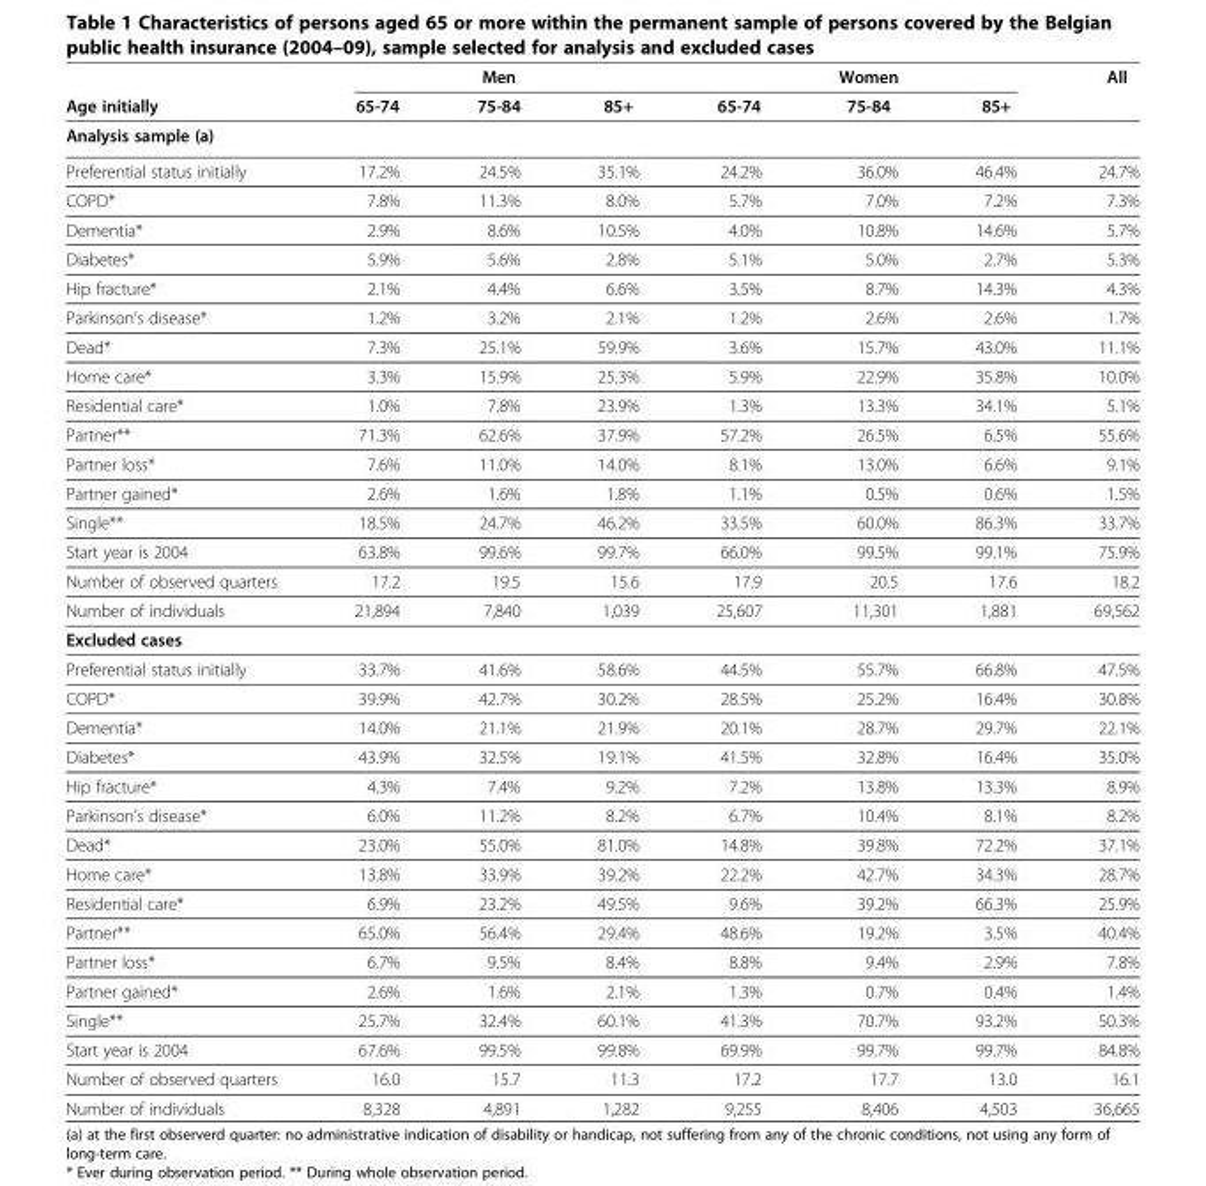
<table><thead><tr><td rowspan="3">Age initially Analysis sample (a)</td><td rowspan="3">65-74</td><td rowspan="3">Men 75-84</td><td rowspan="3">85+</td><td rowspan="3">65-74</td><td rowspan="3">Women 75-84</td><td rowspan="3">85+</td><td rowspan="3">All</td></tr><tr></tr><tr></tr></thead><tbody><tr><td>Preferential status initially</td><td>17.2%</td><td>24.5%</td><td>35.1%</td><td>24.2%</td><td>36.0%</td><td>46.4%</td><td>24.7%</td></tr><tr><td>COPD*</td><td>7.8%</td><td>11.3%</td><td>8.0%</td><td>5.7%</td><td>7.0%</td><td>7.2%</td><td>7.3%</td></tr><tr><td>Dementia*</td><td>2.9%</td><td>8.6%</td><td>10.5%</td><td>4.0%</td><td>10.8%</td><td>14.6%</td><td>5.7%</td></tr><tr><td>Diabetes*</td><td>5.9%</td><td>5.6%</td><td>2.8%</td><td>5.1%</td><td>5.0%</td><td>2.7%</td><td>5.3%</td></tr><tr><td>Hip fracture*</td><td>2.1%</td><td>4.4%</td><td>6.6%</td><td>3.5%</td><td>8.7%</td><td>14.3%</td><td>4.3%</td></tr><tr><td>Parkinson’s disease*</td><td>1.2%</td><td>3.2%</td><td>2.1%</td><td>1.2%</td><td>2.6%</td><td>2.6%</td><td>1.7%</td></tr><tr><td>Dead*</td><td>7.3%</td><td>25.1%</td><td>59.9%</td><td>3.6%</td><td>15.7%</td><td>43.0%</td><td>11.1%</td></tr><tr><td>Home care*</td><td>3.3%</td><td>15.9%</td><td>25.3%</td><td>5.9%</td><td>22.9%</td><td>35.8%</td><td>10.0%</td></tr><tr><td>Residential care*</td><td>1.0%</td><td>7.8%</td><td>23.9%</td><td>1.3%</td><td>13.3%</td><td>34.1%</td><td>5.1%</td></tr><tr><td>Partner**</td><td>71.3%</td><td>62.6%</td><td>37.9%</td><td>57.2%</td><td>26.5%</td><td>6.5%</td><td>55.6%</td></tr><tr><td>Partner loss*</td><td>7.6%</td><td>11.0%</td><td>14.0%</td><td>8.1%</td><td>13.0%</td><td>6.6%</td><td>9.1%</td></tr><tr><td>Partner gained*</td><td>2.6%</td><td>1.6%</td><td>1.8%</td><td>1.1%</td><td>0.5%</td><td>0.6%</td><td>1.5%</td></tr><tr><td>Single**</td><td>18.5%</td><td>24.7%</td><td>46.2%</td><td>33.5%</td><td>60.0%</td><td>86.3%</td><td>33.7%</td></tr><tr><td>Start year is 2004</td><td>63.8%</td><td>99.6%</td><td>99.7%</td><td>66.0%</td><td>99.5%</td><td>99.1%</td><td>75.9%</td></tr><tr><td>Number of observed quarters</td><td>17.2</td><td>19.5</td><td>15.6</td><td>17.9</td><td>20.5</td><td>17.6</td><td>18.2</td></tr><tr><td>Number of individuals</td><td>21,894</td><td>7,840</td><td>1,039</td><td>25,607</td><td>11,301</td><td>1,881</td><td>69,562</td></tr><tr><td colspan="8">Excluded cases</td></tr><tr><td>Preferential status initially</td><td>33.7%</td><td>41.6%</td><td>58.6%</td><td>44.5%</td><td>55.7%</td><td>66.8%</td><td>47.5%</td></tr><tr><td>COPD*</td><td>39.9%</td><td>42.7%</td><td>30.2%</td><td>28.5%</td><td>25.2%</td><td>16.4%</td><td>30.8%</td></tr><tr><td>Dementia*</td><td>14.0%</td><td>21.1%</td><td>21.9%</td><td>20.1%</td><td>28.7%</td><td>29.7%</td><td>22.1%</td></tr><tr><td>Diabetes*</td><td>43.9%</td><td>32.5%</td><td>19.1%</td><td>41.5%</td><td>32.8%</td><td>16.4%</td><td>35.0%</td></tr><tr><td>Hip fracture*</td><td>4.3%</td><td>7.4%</td><td>9.2%</td><td>7.2%</td><td>13.8%</td><td>13.3%</td><td>8.9%</td></tr><tr><td>Parkinson’s disease*</td><td>6.0%</td><td>11.2%</td><td>8.2%</td><td>6.7%</td><td>10.4%</td><td>8.1%</td><td>8.2%</td></tr><tr><td>Dead*</td><td>23.0%</td><td>55.0%</td><td>81.0%</td><td>14.8%</td><td>39.8%</td><td>72.2%</td><td>37.1%</td></tr><tr><td>Home care*</td><td>13.8%</td><td>33.9%</td><td>39.2%</td><td>22.2%</td><td>42.7%</td><td>34.3%</td><td>28.7%</td></tr><tr><td>Residential care*</td><td>6.9%</td><td>23.2%</td><td>49.5%</td><td>9.6%</td><td>39.2%</td><td>66.3%</td><td>25.9%</td></tr><tr><td>Partner**</td><td>65.0%</td><td>56.4%</td><td>29.4%</td><td>48.6%</td><td>19.2%</td><td>3.5%</td><td>40.4%</td></tr><tr><td>Partner loss*</td><td>6.7%</td><td>9.5%</td><td>8.4%</td><td>8.8%</td><td>9.4%</td><td>2.9%</td><td>7.8%</td></tr><tr><td>Partner gained*</td><td>2.6%</td><td>1.6%</td><td>2.1%</td><td>1.3%</td><td>0.7%</td><td>0.4%</td><td>1.4%</td></tr><tr><td>Single**</td><td>25.7%</td><td>32.4%</td><td>60.1%</td><td>41.3%</td><td>70.7%</td><td>93.2%</td><td>50.3%</td></tr><tr><td>Start year is 2004</td><td>67.6%</td><td>99.5%</td><td>99.8%</td><td>69.9%</td><td>99.7%</td><td>99.7%</td><td>84.8%</td></tr><tr><td>Number of observed quarters</td><td>16.0</td><td>15.7</td><td>11.3</td><td>17.2</td><td>17.7</td><td>13.0</td><td>16.1</td></tr><tr><td>Number of individuals</td><td>8,328</td><td>4,891</td><td>1,282</td><td>9,255</td><td>8,406</td><td>4,503</td><td>36,665</td></tr></tbody></table>